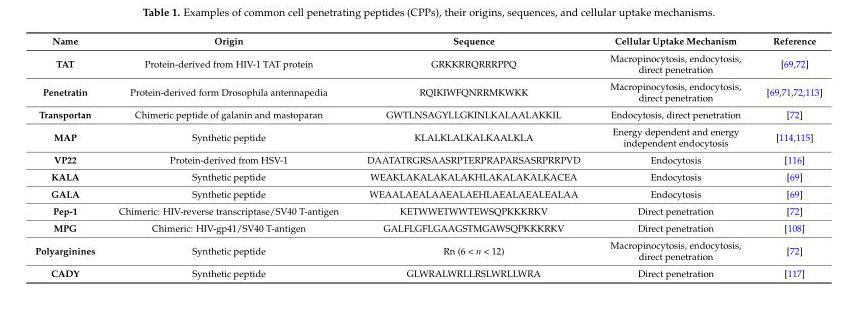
<table><thead><tr><td>Name</td><td>Origin</td><td>Sequence</td><td>Cellular Uptake Mechanism</td><td>Reference</td></tr></thead><tbody><tr><td>TAT</td><td>Protein-derived from HIV-1 TAT protein</td><td>GRKKRRQRRRPPQ</td><td>Macropinocytosis, endocytosis, direct penetration</td><td>[69,72]</td></tr><tr><td>Penetratin</td><td>Protein-derived form Drosophila antennapedia</td><td>RQIKIWFQNRRMKWKK</td><td>Macropinocytosis, endocytosis, direct penetration</td><td>[69,71,72,113]</td></tr><tr><td>Transportan</td><td>Chimeric peptide of galanin and mastoparan</td><td>GWTLNSAGYLLGKINLKALAALAKKIL</td><td>Endocytosis, direct penetration</td><td>[72]</td></tr><tr><td>MAP</td><td>Synthetic peptide</td><td>KLALKLALKALKAALKLA</td><td>Energy dependent and energy independent endocytosis</td><td>[114,115]</td></tr><tr><td>VP22</td><td>Protein-derived from HSV-1</td><td>DAATATRGRSAASRPTERPRAPARSASRPRRPVD</td><td>Endocytosis</td><td>[116]</td></tr><tr><td>KALA</td><td>Synthetic peptide</td><td>WEAKLAKALAKALAKHLAKALAKALKACEA</td><td>Endocytosis</td><td>[69]</td></tr><tr><td>GALA</td><td>Synthetic peptide</td><td>WEAALAEALAAEALAEHLAEALAEALEALAA</td><td>Endocytosis</td><td>[69]</td></tr><tr><td>Pep-1</td><td>Chimeric: HIV-reverse transcriptase/SV40 T-antigen</td><td>KETWWETWWTEWSQPKKKRKV</td><td>Direct penetration</td><td>[72]</td></tr><tr><td>MPG</td><td>Chimeric: HIV-gp41/SV40 T-antigen</td><td>GALFLGFLGAAGSTMGAWSQPKKKRKV</td><td>Direct penetration</td><td>[108]</td></tr><tr><td>Polyarginines</td><td>Synthetic peptide</td><td>Rn (6 &lt; n &lt; 12)</td><td>Macropinocytosis, endocytosis, direct penetration</td><td>[72]</td></tr><tr><td>CADY</td><td>Synthetic peptide</td><td>GLWRALWRLLRSLWRLLWRA</td><td>Direct penetration</td><td>[117]</td></tr></tbody></table>